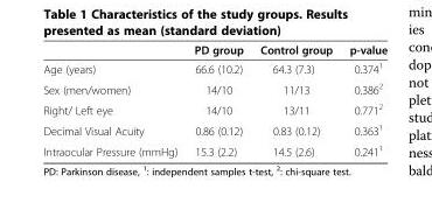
<table><thead><tr><td></td><td>PD group</td><td>Control group</td><td>p-value</td></tr></thead><tbody><tr><td>Age (years)</td><td>66.6 (10.2)</td><td>64.3 (7.3)</td><td>0.374<sup>1</sup></td></tr><tr><td>Sex (men/women)</td><td>14/10</td><td>11/13</td><td>0.386<sup>2</sup></td></tr><tr><td>Right/ Left eye</td><td>14/10</td><td>13/11</td><td>0.771<sup>2</sup></td></tr><tr><td>Decimal Visual Acuity</td><td>0.86 (0.12)</td><td>0.83 (0.12)</td><td>0.363<sup>1</sup></td></tr><tr><td>Intraocular Pressure (mmHg)</td><td>15.3 (2.2)</td><td>14.5 (2.6)</td><td>0.241<sup>1</sup></td></tr></tbody></table>